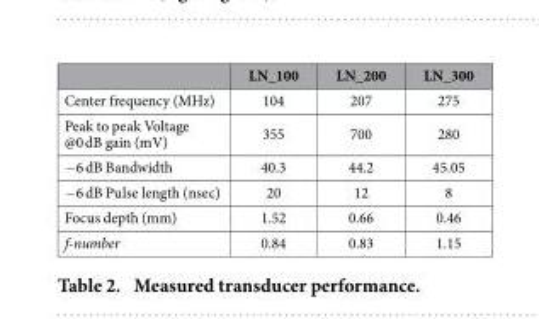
<table><thead><tr><td></td><td>LN_100</td><td>LN_200</td><td>LN_300</td></tr></thead><tbody><tr><td>Center frequency (MHz)</td><td>104</td><td>207</td><td>275</td></tr><tr><td>Peak to peak Voltage @0 dB gain (mV)</td><td>355</td><td>700</td><td>280</td></tr><tr><td>− 6 dB Bandwidth</td><td>40.3</td><td>44.2</td><td>45.05</td></tr><tr><td>− 6 dB Pulse length (nsec)</td><td>20</td><td>12</td><td>8</td></tr><tr><td>Focus depth (mm)</td><td>1.52</td><td>0.66</td><td>0.46</td></tr><tr><td>f-number</td><td>0.84</td><td>0.83</td><td>1.15</td></tr></tbody></table>